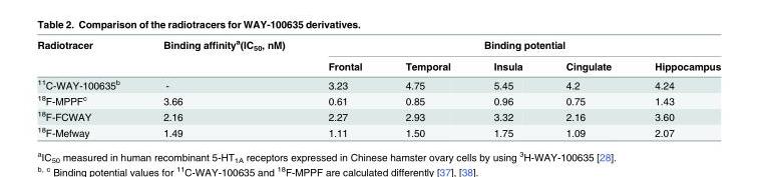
<table><thead><tr><td rowspan="2">Radiotracer</td><td rowspan="2">Binding affinity<sup>a</sup>(IC<sub>50</sub>, nM)</td><td colspan="5">Binding potential</td></tr><tr><td>Frontal</td><td>Temporal</td><td>Insula</td><td>Cingulate</td><td>Hippocampus</td></tr></thead><tbody><tr><td><sup>11</sup>C-WAY-100635<sup>b</sup></td><td>-</td><td>3.23</td><td>4.75</td><td>5.45</td><td>4.2</td><td>4.24</td></tr><tr><td><sup>18</sup>F-MPPF<sup>c</sup></td><td>3.66</td><td>0.61</td><td>0.85</td><td>0.96</td><td>0.75</td><td>1.43</td></tr><tr><td><sup>18</sup>F-FCWAY</td><td>2.16</td><td>2.27</td><td>2.93</td><td>3.32</td><td>2.16</td><td>3.60</td></tr><tr><td><sup>18</sup>F-Mefway</td><td>1.49</td><td>1.11</td><td>1.50</td><td>1.75</td><td>1.09</td><td>2.07</td></tr></tbody></table>